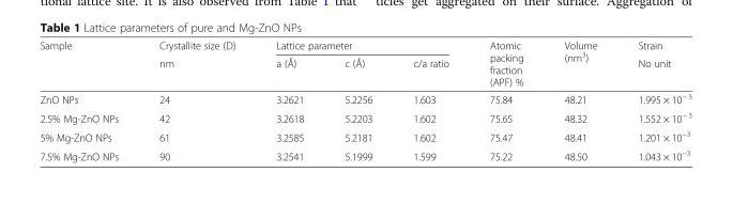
<table><thead><tr><td rowspan="2">Sample</td><td rowspan="2">Crystallite size (D) nm</td><td colspan="3">Lattice parameter</td><td rowspan="2">Atomic packing fraction (APF) %</td><td rowspan="2">Volume (nm<sup>3</sup>)</td><td rowspan="2">Strain No unit</td></tr><tr><td>a (Å)</td><td>c (Å)</td><td>c/a ratio</td></tr></thead><tbody><tr><td>ZnO NPs</td><td>24</td><td>3.2621</td><td>5.2256</td><td>1.603</td><td>75.84</td><td>48.21</td><td>1.995 × 10<sup>− 3</sup></td></tr><tr><td>2.5% Mg-ZnO NPs</td><td>42</td><td>3.2618</td><td>5.2203</td><td>1.602</td><td>75.65</td><td>48.32</td><td>1.552 × 10<sup>− 3</sup></td></tr><tr><td>5% Mg-ZnO NPs</td><td>61</td><td>3.2585</td><td>5.2181</td><td>1.602</td><td>75.47</td><td>48.41</td><td>1.201 × 10<sup>−3</sup></td></tr><tr><td>7.5% Mg-ZnO NPs</td><td>90</td><td>3.2541</td><td>5.1999</td><td>1.599</td><td>75.22</td><td>48.50</td><td>1.043 × 10<sup>−3</sup></td></tr></tbody></table>